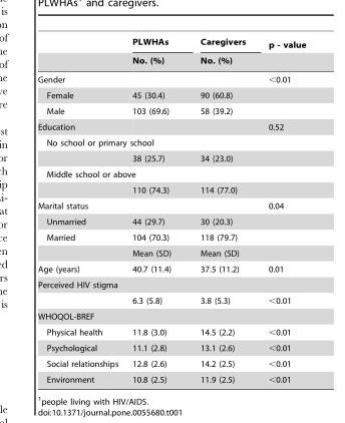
<table><thead><tr><td rowspan="2"></td><td rowspan="2">PLWHAs No. (%)</td><td rowspan="2">Caregivers No. (%)</td><td rowspan="2">p - value</td></tr><tr></tr></thead><tbody><tr><td>Gender</td><td></td><td></td><td>&lt;0.01</td></tr><tr><td>Female</td><td>45 (30.4)</td><td>90 (60.8)</td><td></td></tr><tr><td>Male</td><td>103 (69.6)</td><td>58 (39.2)</td><td></td></tr><tr><td>Education</td><td></td><td></td><td>0.52</td></tr><tr><td colspan="4">No school or primary school</td></tr><tr><td></td><td>38 (25.7)</td><td>34 (23.0)</td><td></td></tr><tr><td colspan="4">Middle school or above</td></tr><tr><td></td><td>110 (74.3)</td><td>114 (77.0)</td><td></td></tr><tr><td>Marital status</td><td></td><td></td><td>0.04</td></tr><tr><td>Unmarried</td><td>44 (29.7)</td><td>30 (20.3)</td><td></td></tr><tr><td rowspan="2">Married</td><td>104 (70.3)</td><td>118 (79.7)</td><td></td></tr><tr><td>Mean (SD)</td><td>Mean (SD)</td><td></td></tr><tr><td>Age (years)</td><td>40.7 (11.4)</td><td>37.5 (11.2)</td><td>0.01</td></tr><tr><td colspan="4">Perceived HIV stigma</td></tr><tr><td></td><td>6.3 (5.8)</td><td>3.8 (5.3)</td><td>&lt;0.01</td></tr><tr><td colspan="4">WHOQOL-BREF</td></tr><tr><td>Physical health</td><td>11.8 (3.0)</td><td>14.5 (2.2)</td><td>&lt;0.01</td></tr><tr><td>Psychological</td><td>11.1 (2.8)</td><td>13.1 (2.6)</td><td>&lt;0.01</td></tr><tr><td>Social relationships</td><td>12.8 (2.6)</td><td>14.2 (2.5)</td><td>&lt;0.01</td></tr><tr><td>Environment</td><td>10.8 (2.5)</td><td>11.9 (2.5)</td><td>&lt;0.01</td></tr></tbody></table>